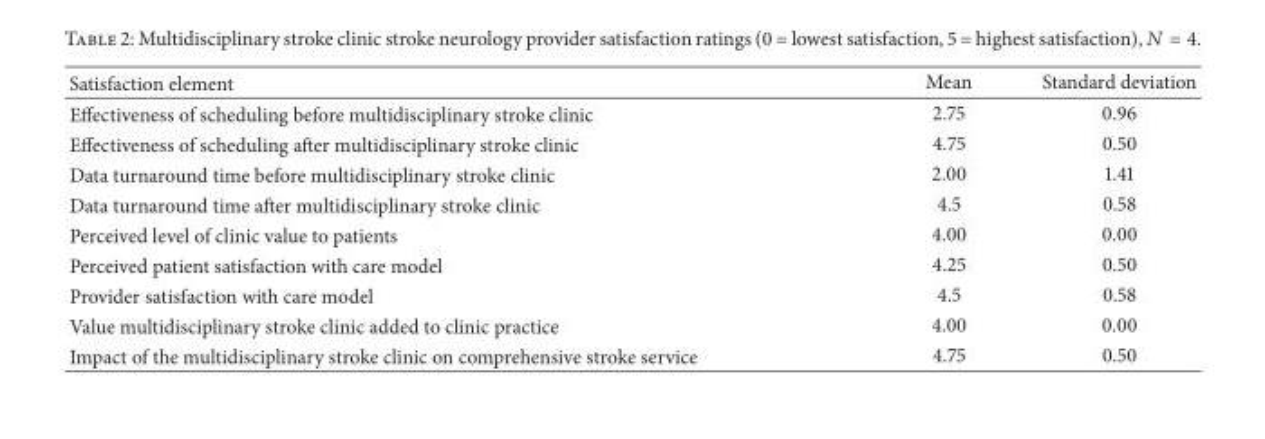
<table><thead><tr><td>Satisfaction element</td><td>Mean</td><td>Standard deviation</td></tr></thead><tbody><tr><td>Effectiveness of scheduling before multidisciplinary stroke clinic</td><td>2.75</td><td>0.96</td></tr><tr><td>Effectiveness of scheduling after multidisciplinary stroke clinic</td><td>4.75</td><td>0.50</td></tr><tr><td>Data turnaround time before multidisciplinary stroke clinic</td><td>2.00</td><td>1.41</td></tr><tr><td>Data turnaround time after multidisciplinary stroke clinic</td><td>4.5</td><td>0.58</td></tr><tr><td>Perceived level of clinic value to patients</td><td>4.00</td><td>0.00</td></tr><tr><td>Perceived patient satisfaction with care model</td><td>4.25</td><td>0.50</td></tr><tr><td>Provider satisfaction with care model</td><td>4.5</td><td>0.58</td></tr><tr><td>Value multidisciplinary stroke clinic added to clinic practice</td><td>4.00</td><td>0.00</td></tr><tr><td>Impact of the multidisciplinary stroke clinic on comprehensive stroke service</td><td>4.75</td><td>0.50</td></tr></tbody></table>